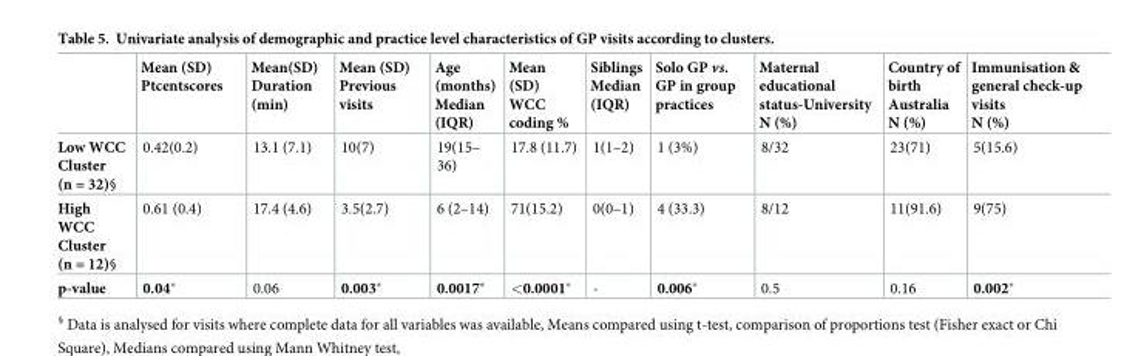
<table><thead><tr><td></td><td>Mean (SD) Ptcentscores</td><td>Mean(SD) Duration (min)</td><td>Mean (SD) Previous visits</td><td>Age (months) Median (IQR)</td><td>Mean (SD) WCC coding %</td><td>Siblings Median (IQR)</td><td>Solo GP vs. GP in group practices</td><td>Maternal educational status-University N (%)</td><td>Country of birth Australia N (%)</td><td>Immunisation &amp; general check-up visits N (%)</td></tr></thead><tbody><tr><td>Low WCC Cluster (n = 32)§</td><td>0.42(0.2)</td><td>13.1 (7.1)</td><td>10(7)</td><td>19(15– 36)</td><td>17.8 (11.7)</td><td>1(1–2)</td><td>1 (3%)</td><td>8/32</td><td>23(71)</td><td>5(15.6)</td></tr><tr><td>High WCC Cluster (n = 12)§</td><td>0.61 (0.4)</td><td>17.4 (4.6)</td><td>3.5(2.7)</td><td>6 (2–14)</td><td>71(15.2)</td><td>0(0–1)</td><td>4 (33.3)</td><td>8/12</td><td>11(91.6)</td><td>9(75)</td></tr><tr><td>p-value</td><td>0.04*</td><td>0.06</td><td>0.003*</td><td>0.0017*</td><td>&lt;0.0001*</td><td>-</td><td>0.006*</td><td>0.5</td><td>0.16</td><td>0.002*</td></tr></tbody></table>